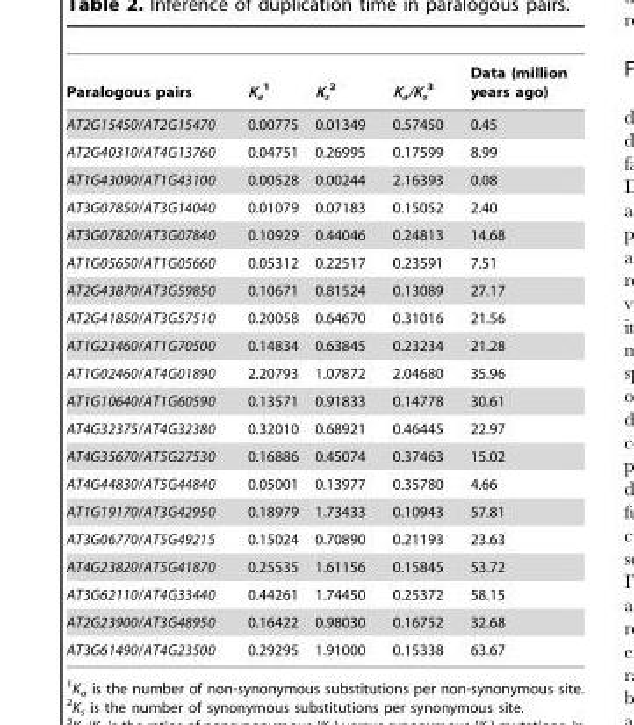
<table><thead><tr><td>Paralogous pairs</td><td>K<sub>a</sub> 1</td><td>K<sub>s</sub> 2</td><td>K<sub>a</sub>/K<sub>s</sub> 3</td><td>Data (million years ago)</td></tr></thead><tbody><tr><td>AT2G15450/AT2G15470</td><td>0.00775</td><td>0.01349</td><td>0.57450</td><td>0.45</td></tr><tr><td>AT2G40310/AT4G13760</td><td>0.04751</td><td>0.26995</td><td>0.17599</td><td>8.99</td></tr><tr><td>AT1G43090/AT1G43100</td><td>0.00528</td><td>0.00244</td><td>2.16393</td><td>0.08</td></tr><tr><td>AT3G07850/AT3G14040</td><td>0.01079</td><td>0.07183</td><td>0.15052</td><td>2.40</td></tr><tr><td>AT3G07820/AT3G07840</td><td>0.10929</td><td>0.44046</td><td>0.24813</td><td>14.68</td></tr><tr><td>AT1G05650/AT1G05660</td><td>0.05312</td><td>0.22517</td><td>0.23591</td><td>7.51</td></tr><tr><td>AT2G43870/AT3G59850</td><td>0.10671</td><td>0.81524</td><td>0.13089</td><td>27.17</td></tr><tr><td>AT2G41850/AT3G57510</td><td>0.20058</td><td>0.64670</td><td>0.31016</td><td>21.56</td></tr><tr><td>AT1G23460/AT1G70500</td><td>0.14834</td><td>0.63845</td><td>0.23234</td><td>21.28</td></tr><tr><td>AT1G02460/AT4G01890</td><td>2.20793</td><td>1.07872</td><td>2.04680</td><td>35.96</td></tr><tr><td>AT1G10640/AT1G60590</td><td>0.13571</td><td>0.91833</td><td>0.14778</td><td>30.61</td></tr><tr><td>AT4G32375/AT4G32380</td><td>0.32010</td><td>0.68921</td><td>0.46445</td><td>22.97</td></tr><tr><td>AT4G35670/AT5G27530</td><td>0.16886</td><td>0.45074</td><td>0.37463</td><td>15.02</td></tr><tr><td>AT4G44830/AT5G44840</td><td>0.05001</td><td>0.13977</td><td>0.35780</td><td>4.66</td></tr><tr><td>AT1G19170/AT3G42950</td><td>0.18979</td><td>1.73433</td><td>0.10943</td><td>57.81</td></tr><tr><td>AT3G06770/AT5G49215</td><td>0.15024</td><td>0.70890</td><td>0.21193</td><td>23.63</td></tr><tr><td>AT4G23820/AT5G41870</td><td>0.25535</td><td>1.61156</td><td>0.15845</td><td>53.72</td></tr><tr><td>AT3G62110/AT4G33440</td><td>0.44261</td><td>1.74450</td><td>0.25372</td><td>58.15</td></tr><tr><td>AT2G23900/AT3G48950</td><td>0.16422</td><td>0.98030</td><td>0.16752</td><td>32.68</td></tr><tr><td>AT3G61490/AT4G23500</td><td>0.29295</td><td>1.91000</td><td>0.15338</td><td>63.67</td></tr></tbody></table>